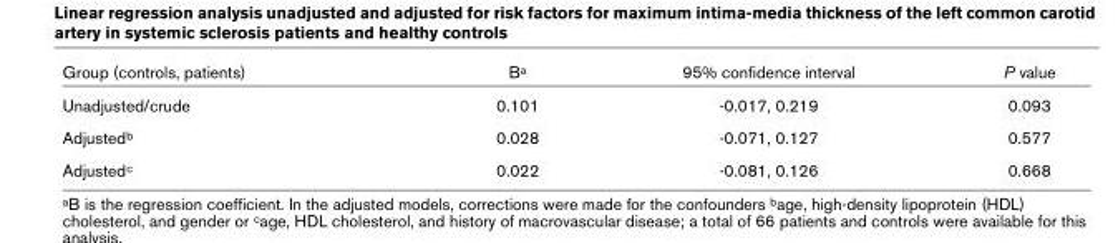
<table><thead><tr><td>Group (controls, patients)</td><td>B<sup>a</sup></td><td>95% confidence interval</td><td>P value</td></tr></thead><tbody><tr><td>Unadjusted/crude</td><td>0.101</td><td>-0.017, 0.219</td><td>0.093</td></tr><tr><td>Adjusted<sup>b</sup></td><td>0.028</td><td>-0.071, 0.127</td><td>0.577</td></tr><tr><td>Adjusted<sup>c</sup></td><td>0.022</td><td>-0.081, 0.126</td><td>0.668</td></tr></tbody></table>